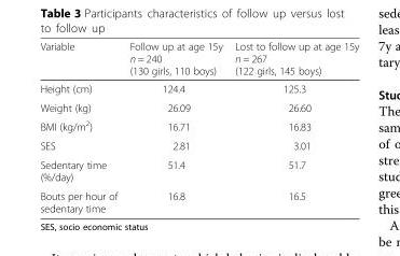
<table><thead><tr><td>Variable</td><td>Follow up at age 15y n = 240 (130 girls, 110 boys)</td><td>Lost to follow up at age 15y n = 267 (122 girls, 145 boys)</td></tr></thead><tbody><tr><td>Height (cm)</td><td>124.4</td><td>125.3</td></tr><tr><td>Weight (kg)</td><td>26.09</td><td>26.60</td></tr><tr><td>BMI (kg/m<sup>2</sup>)</td><td>16.71</td><td>16.83</td></tr><tr><td>SES</td><td>2.81</td><td>3.01</td></tr><tr><td>Sedentary time (%/day)</td><td>51.4</td><td>51.7</td></tr><tr><td>Bouts per hour of sedentary time</td><td>16.8</td><td>16.5</td></tr></tbody></table>